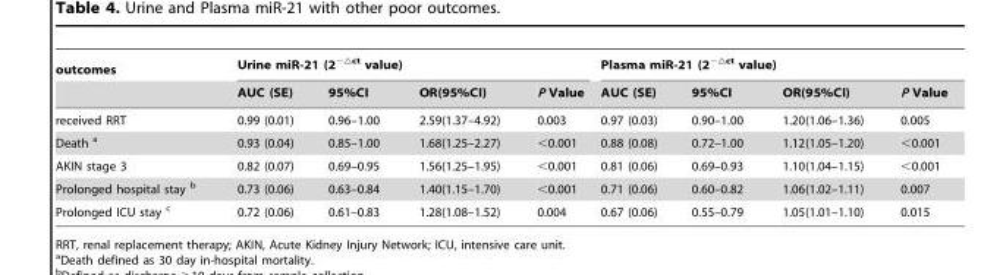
<table><thead><tr><td rowspan="2">outcomes</td><td colspan="4">Urine miR-21 (2<sup>−△ct</sup> value)</td><td colspan="4">Plasma miR-21 (2<sup>−△ct</sup> value)</td></tr><tr><td>AUC (SE)</td><td>95%CI</td><td>OR(95%CI)</td><td>P Value</td><td>AUC (SE)</td><td>95%CI</td><td>OR(95%CI)</td><td>P Value</td></tr></thead><tbody><tr><td>received RRT</td><td>0.99 (0.01)</td><td>0.96–1.00</td><td>2.59(1.37–4.92)</td><td>0.003</td><td>0.97 (0.03)</td><td>0.90–1.00</td><td>1.20(1.06–1.36)</td><td>0.005</td></tr><tr><td>Death a</td><td>0.93 (0.04)</td><td>0.85–1.00</td><td>1.68(1.25–2.27)</td><td>&lt;0.001</td><td>0.88 (0.08)</td><td>0.72–1.00</td><td>1.12(1.05–1.20)</td><td>&lt;0.001</td></tr><tr><td>AKIN stage 3</td><td>0.82 (0.07)</td><td>0.69–0.95</td><td>1.56(1.25–1.95)</td><td>&lt;0.001</td><td>0.81 (0.06)</td><td>0.69–0.93</td><td>1.10(1.04–1.15)</td><td>&lt;0.001</td></tr><tr><td>Prolonged hospital stay b</td><td>0.73 (0.06)</td><td>0.63–0.84</td><td>1.40(1.15–1.70)</td><td>&lt;0.001</td><td>0.71 (0.06)</td><td>0.60–0.82</td><td>1.06(1.02–1.11)</td><td>0.007</td></tr><tr><td>Prolonged ICU stay c</td><td>0.72 (0.06)</td><td>0.61–0.83</td><td>1.28(1.08–1.52)</td><td>0.004</td><td>0.67 (0.06)</td><td>0.55–0.79</td><td>1.05(1.01–1.10)</td><td>0.015</td></tr></tbody></table>